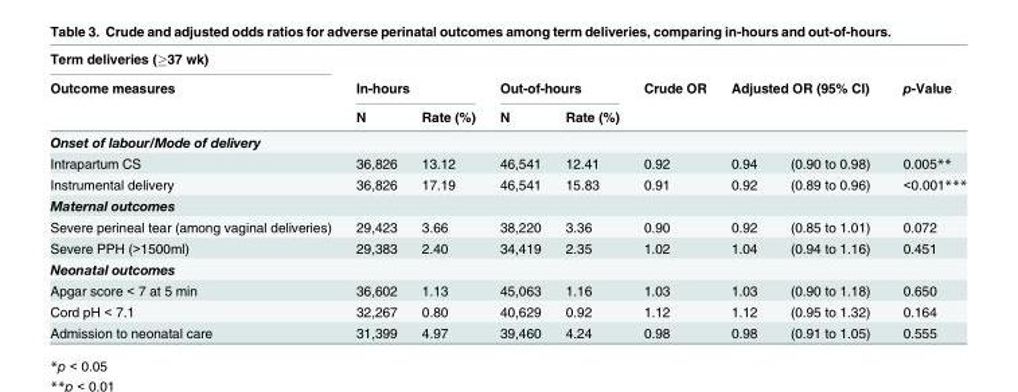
<table><thead><tr><td rowspan="3">Term deliveries (≥37 wk) Outcome measures</td><td></td><td></td><td></td><td></td><td rowspan="3">Crude OR</td><td></td><td></td><td rowspan="3">p-Value</td></tr><tr><td colspan="2">In-hours</td><td colspan="2">Out-of-hours</td><td colspan="2">Adjusted OR (95% CI)</td></tr><tr><td>N</td><td>Rate (%)</td><td>N</td><td>Rate (%)</td><td></td><td></td></tr></thead><tbody><tr><td colspan="9">Onset of labour/Mode of delivery</td></tr><tr><td>Intrapartum CS</td><td>36,826</td><td>13.12</td><td>46,541</td><td>12.41</td><td>0.92</td><td>0.94</td><td>(0.90 to 0.98)</td><td>0.005**</td></tr><tr><td>Instrumental delivery</td><td>36,826</td><td>17.19</td><td>46,541</td><td>15.83</td><td>0.91</td><td>0.92</td><td>(0.89 to 0.96)</td><td>&lt;0.001***</td></tr><tr><td colspan="9">Maternal outcomes</td></tr><tr><td>Severe perineal tear (among vaginal deliveries)</td><td>29,423</td><td>3.66</td><td>38,220</td><td>3.36</td><td>0.90</td><td>0.92</td><td>(0.85 to 1.01)</td><td>0.072</td></tr><tr><td>Severe PPH (&gt;1500ml)</td><td>29,383</td><td>2.40</td><td>34,419</td><td>2.35</td><td>1.02</td><td>1.04</td><td>(0.94 to 1.16)</td><td>0.451</td></tr><tr><td colspan="9">Neonatal outcomes</td></tr><tr><td>Apgar score &lt; 7 at 5 min</td><td>36,602</td><td>1.13</td><td>45,063</td><td>1.16</td><td>1.03</td><td>1.03</td><td>(0.90 to 1.18)</td><td>0.650</td></tr><tr><td>Cord pH &lt; 7.1</td><td>32,267</td><td>0.80</td><td>40,629</td><td>0.92</td><td>1.12</td><td>1.12</td><td>(0.95 to 1.32)</td><td>0.164</td></tr><tr><td>Admission to neonatal care</td><td>31,399</td><td>4.97</td><td>39,460</td><td>4.24</td><td>0.98</td><td>0.98</td><td>(0.91 to 1.05)</td><td>0.555</td></tr></tbody></table>